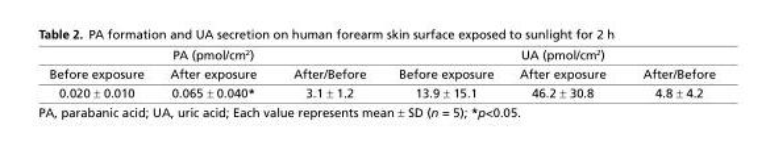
<table><thead><tr><td colspan="3">PA (pmol/cm<sup>2</sup>)</td><td colspan="3">UA (pmol/cm<sup>2</sup>)</td></tr><tr><td>Before exposure</td><td>After exposure</td><td>After/Before</td><td>Before exposure</td><td>After exposure</td><td>After/Before</td></tr></thead><tbody><tr><td>0.020 ± 0.010</td><td>0.065 ± 0.040*</td><td>3.1 ± 1.2</td><td>13.9 ± 15.1</td><td>46.2 ± 30.8</td><td>4.8 ± 4.2</td></tr></tbody></table>